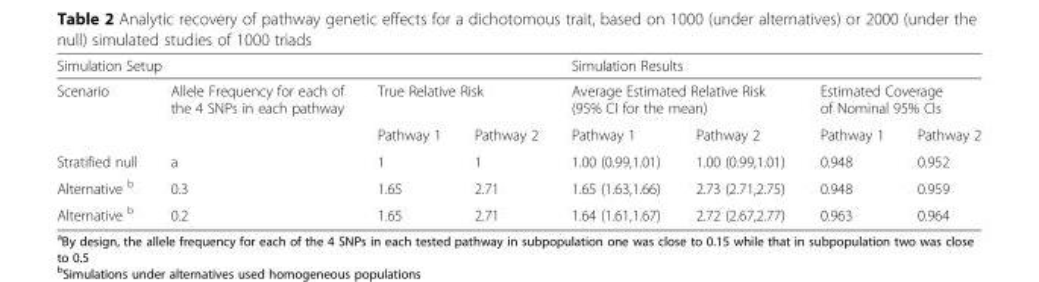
<table><thead><tr><td colspan="4">Simulation Setup</td><td colspan="4">Simulation Results</td></tr><tr><td rowspan="2">Scenario</td><td rowspan="2">Allele Frequency for each of the 4 SNPs in each pathway</td><td colspan="2">True Relative Risk</td><td colspan="2">Average Estimated Relative Risk (95% CI for the mean)</td><td colspan="2">Estimated Coverage of Nominal 95% CIs</td></tr><tr><td>Pathway 1</td><td>Pathway 2</td><td>Pathway 1</td><td>Pathway 2</td><td>Pathway 1</td><td>Pathway 2</td></tr></thead><tbody><tr><td>Stratified null</td><td>a</td><td>1</td><td>1</td><td>1.00 (0.99,1.01)</td><td>1.00 (0.99,1.01)</td><td>0.948</td><td>0.952</td></tr><tr><td>Alternative <sup>b</sup></td><td>0.3</td><td>1.65</td><td>2.71</td><td>1.65 (1.63,1.66)</td><td>2.73 (2.71,2.75)</td><td>0.948</td><td>0.959</td></tr><tr><td>Alternative <sup>b</sup></td><td>0.2</td><td>1.65</td><td>2.71</td><td>1.64 (1.61,1.67)</td><td>2.72 (2.67,2.77)</td><td>0.963</td><td>0.964</td></tr></tbody></table>